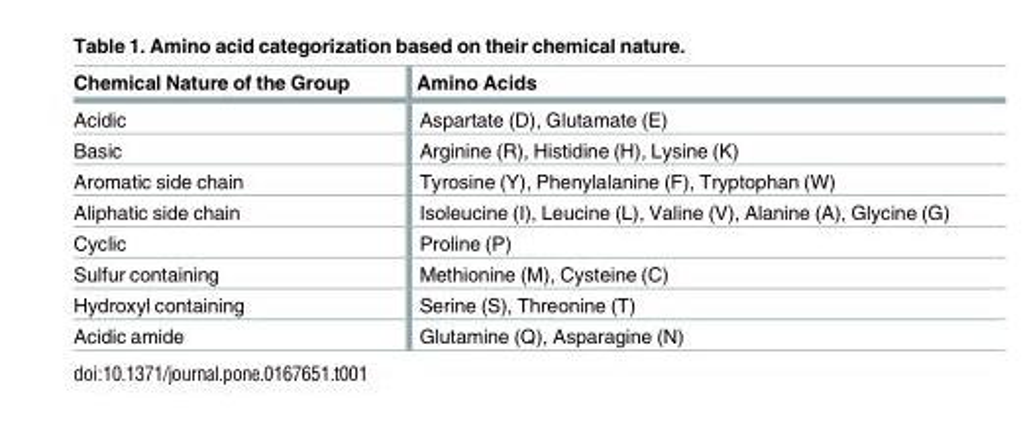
<table><thead><tr><td>Chemical Nature of the Group</td><td>Amino Acids</td></tr></thead><tbody><tr><td>Acidic</td><td>Aspartate (D), Glutamate (E)</td></tr><tr><td>Basic</td><td>Arginine (R), Histidine (H), Lysine (K)</td></tr><tr><td>Aromatic side chain</td><td>Tyrosine (Y), Phenylalanine (F), Tryptophan (W)</td></tr><tr><td>Aliphatic side chain</td><td>Isoleucine (I), Leucine (L), Valine (V), Alanine (A), Glycine (G)</td></tr><tr><td>Cyclic</td><td>Proline (P)</td></tr><tr><td>Sulfur containing</td><td>Methionine (M), Cysteine (C)</td></tr><tr><td>Hydroxyl containing</td><td>Serine (S), Threonine (T)</td></tr><tr><td>Acidic amide</td><td>Glutamine (Q), Asparagine (N)</td></tr></tbody></table>